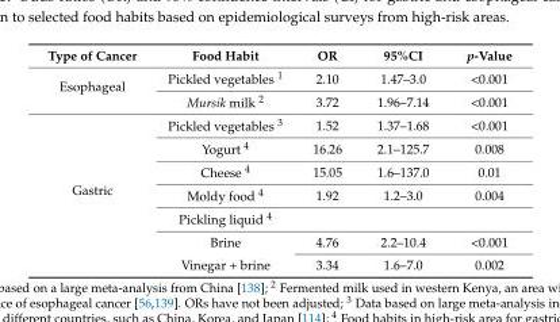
<table><thead><tr><td>Type of Cancer</td><td>Food Habit</td><td>OR</td><td>95%CI</td><td>p-Value</td></tr></thead><tbody><tr><td rowspan="2">Esophageal</td><td>Pickled vegetables <sup>1</sup></td><td>2.10</td><td>1.47–3.0</td><td>&lt;0.001</td></tr><tr><td>Mursik milk <sup>2</sup></td><td>3.72</td><td>1.96–7.14</td><td>&lt;0.001</td></tr><tr><td rowspan="7">Gastric</td><td>Pickled vegetables <sup>3</sup></td><td>1.52</td><td>1.37–1.68</td><td>&lt;0.001</td></tr><tr><td>Yogurt <sup>4</sup></td><td>16.26</td><td>2.1–125.7</td><td>0.008</td></tr><tr><td>Cheese <sup>4</sup></td><td>15.05</td><td>1.6–137.0</td><td>0.01</td></tr><tr><td>Moldy food <sup>4</sup></td><td>1.92</td><td>1.2–3.0</td><td>0.004</td></tr><tr><td>Pickling liquid <sup>4</sup></td><td></td><td></td><td></td></tr><tr><td>Brine</td><td>4.76</td><td>2.2–10.4</td><td>&lt;0.001</td></tr><tr><td>Vinegar + brine</td><td>3.34</td><td>1.6–7.0</td><td>0.002</td></tr></tbody></table>